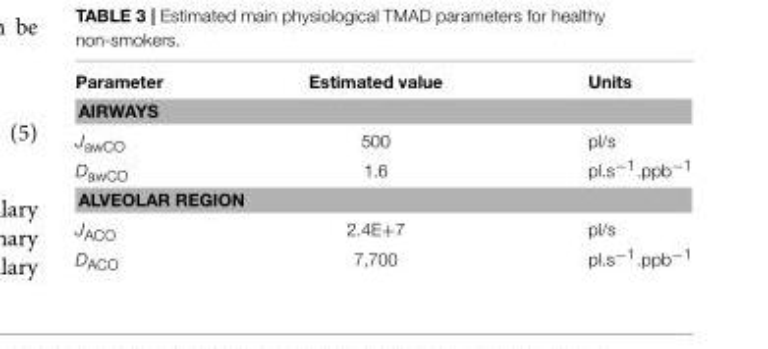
<table><thead><tr><td>Parameter</td><td>Estimated value</td><td>Units</td></tr></thead><tbody><tr><td colspan="3">AIRWAYS</td></tr><tr><td>J<sub>awCO</sub></td><td>500</td><td>pl/s</td></tr><tr><td>D<sub>awCO</sub></td><td>1.6</td><td>pl.s<sup>−1</sup>.ppb<sup>−1</sup></td></tr><tr><td colspan="3">ALVEOLAR REGION</td></tr><tr><td>J<sub>ACO</sub></td><td>2.4E+7</td><td>pl/s</td></tr><tr><td>D<sub>ACO</sub></td><td>7,700</td><td>pl.s<sup>−1</sup>.ppb<sup>−1</sup></td></tr></tbody></table>